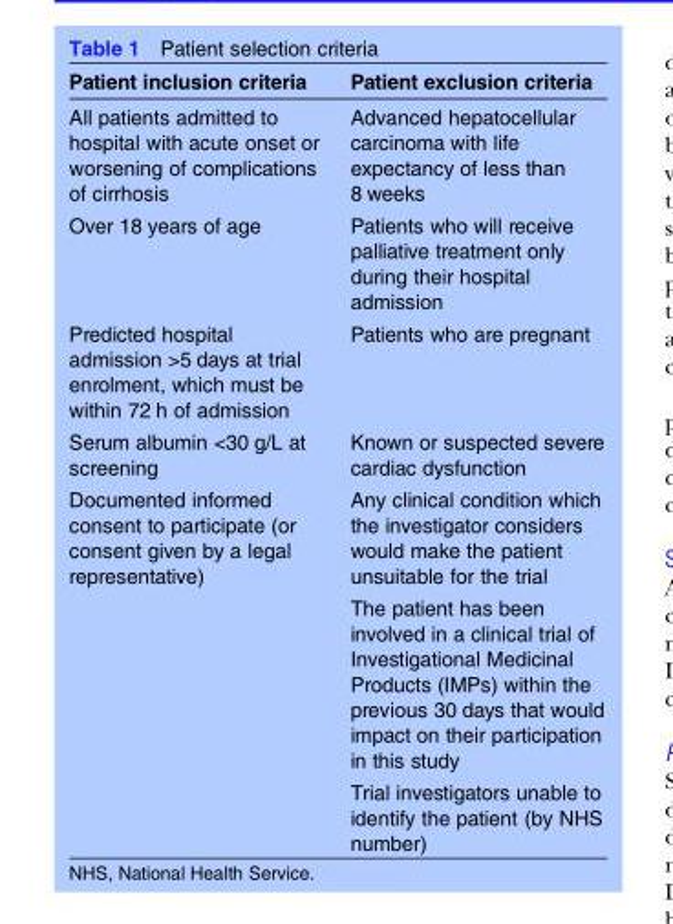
<table><thead><tr><td>Patient inclusion criteria</td><td>Patient exclusion criteria</td></tr></thead><tbody><tr><td>All patients admitted to hospital with acute onset or worsening of complications of cirrhosis</td><td>Advanced hepatocellular carcinoma with life expectancy of less than 8 weeks</td></tr><tr><td>Over 18 years of age</td><td>Patients who will receive palliative treatment only during their hospital admission</td></tr><tr><td>Predicted hospital admission &gt;5 days at trial enrolment, which must be within 72 h of admission</td><td>Patients who are pregnant</td></tr><tr><td>Serum albumin &lt;30 g/L at screening</td><td>Known or suspected severe cardiac dysfunction</td></tr><tr><td rowspan="3">Documented informed consent to participate (or consent given by a legal representative)</td><td>Any clinical condition which the investigator considers would make the patient unsuitable for the trial</td></tr><tr><td>The patient has been involved in a clinical trial of Investigational Medicinal Products (IMPs) within the previous 30 days that would impact on their participation in this study</td></tr><tr><td>Trial investigators unable to identify the patient (by NHS number)</td></tr></tbody></table>